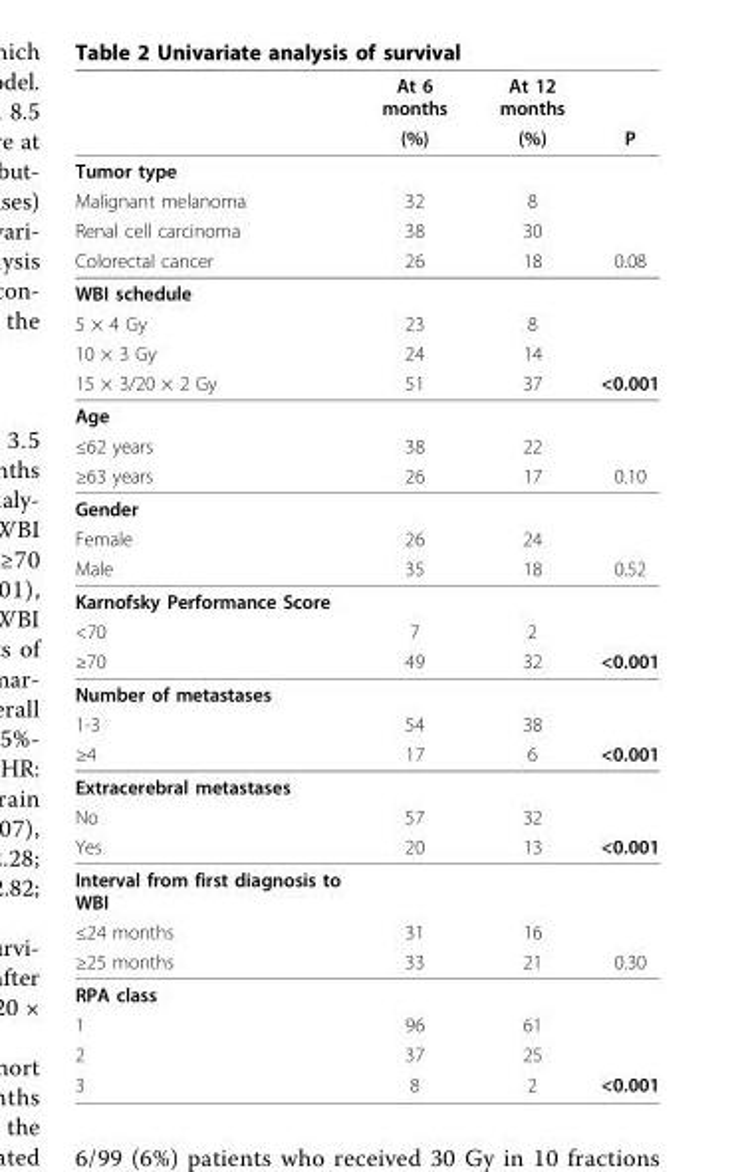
<table><thead><tr><td rowspan="2"></td><td rowspan="2">At 6 months (%)</td><td rowspan="2">At 12 months (%)</td><td rowspan="2">P</td></tr><tr></tr></thead><tbody><tr><td colspan="4">Tumor type</td></tr><tr><td>Malignant melanoma</td><td>32</td><td>8</td><td></td></tr><tr><td>Renal cell carcinoma</td><td>38</td><td>30</td><td></td></tr><tr><td>Colorectal cancer</td><td>26</td><td>18</td><td>0.08</td></tr><tr><td colspan="4">WBI schedule</td></tr><tr><td>5 × 4 Gy</td><td>23</td><td>8</td><td></td></tr><tr><td>10 × 3 Gy</td><td>24</td><td>14</td><td></td></tr><tr><td>15 × 3/20 × 2 Gy</td><td>51</td><td>37</td><td>&lt;0.001</td></tr><tr><td colspan="4">Age</td></tr><tr><td>≤62 years</td><td>38</td><td>22</td><td></td></tr><tr><td>≥63 years</td><td>26</td><td>17</td><td>0.10</td></tr><tr><td colspan="4">Gender</td></tr><tr><td>Female</td><td>26</td><td>24</td><td></td></tr><tr><td>Male</td><td>35</td><td>18</td><td>0.52</td></tr><tr><td colspan="4">Karnofsky Performance Score</td></tr><tr><td>&lt;70</td><td>7</td><td>2</td><td></td></tr><tr><td>≥70</td><td>49</td><td>32</td><td>&lt;0.001</td></tr><tr><td colspan="4">Number of metastases</td></tr><tr><td>1-3</td><td>54</td><td>38</td><td></td></tr><tr><td>≥4</td><td>17</td><td>6</td><td>&lt;0.001</td></tr><tr><td colspan="4">Extracerebral metastases</td></tr><tr><td>No</td><td>57</td><td>32</td><td></td></tr><tr><td>Yes</td><td>20</td><td>13</td><td>&lt;0.001</td></tr><tr><td colspan="4">Interval from first diagnosis to WBI</td></tr><tr><td>≤24 months</td><td>31</td><td>16</td><td></td></tr><tr><td>≥25 months</td><td>33</td><td>21</td><td>0.30</td></tr><tr><td colspan="4">RPA class</td></tr><tr><td>1</td><td>96</td><td>61</td><td></td></tr><tr><td>2</td><td>37</td><td>25</td><td></td></tr><tr><td>3</td><td>8</td><td>2</td><td>&lt;0.001</td></tr></tbody></table>